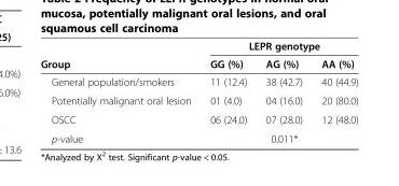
<table><thead><tr><td rowspan="2">Group</td><td colspan="3">LEPR genotype</td></tr><tr><td>GG (%)</td><td>AG (%)</td><td>AA (%)</td></tr></thead><tbody><tr><td>General population/smokers</td><td>11 (12.4)</td><td>38 (42.7)</td><td>40 (44.9)</td></tr><tr><td>Potentially malignant oral lesion</td><td>01 (4.0)</td><td>04 (16.0)</td><td>20 (80.0)</td></tr><tr><td>OSCC</td><td>06 (24.0)</td><td>07 (28.0)</td><td>12 (48.0)</td></tr><tr><td>p-value</td><td></td><td>0.011*</td><td></td></tr></tbody></table>